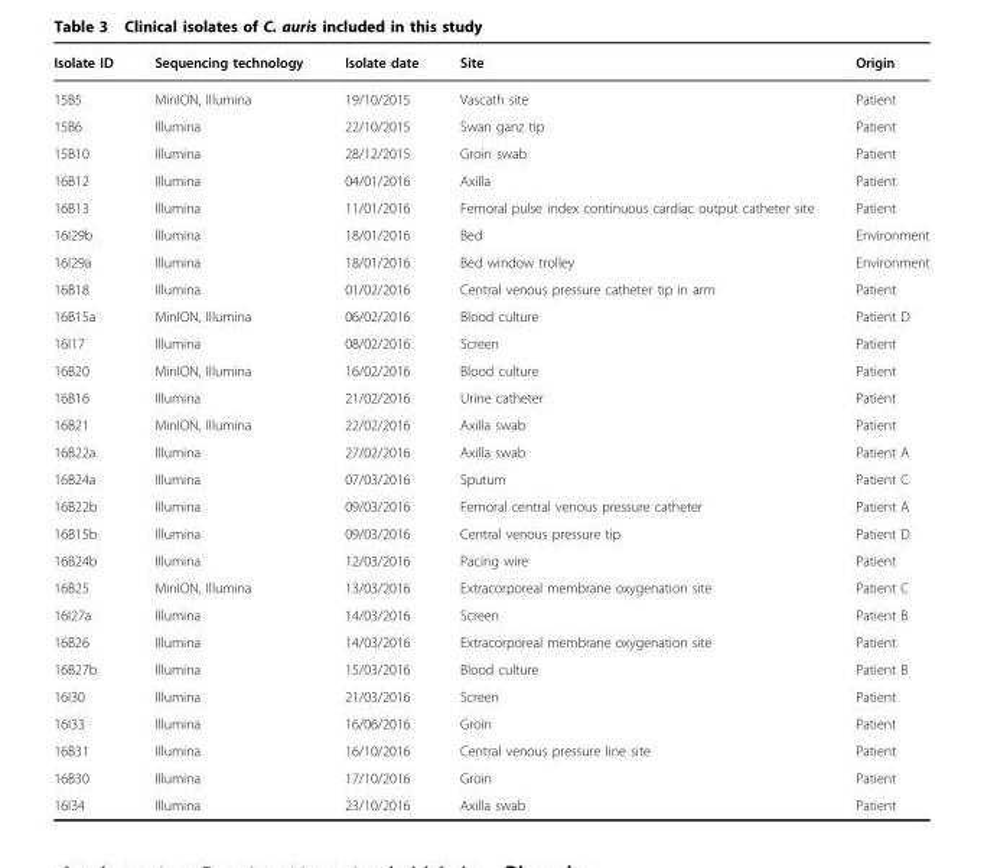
<table><thead><tr><td>Isolate ID</td><td>Sequencing technology</td><td>Isolate date</td><td>Site</td><td>Origin</td></tr></thead><tbody><tr><td>15B5</td><td>MinION, Illumina</td><td>19/10/2015</td><td>Vascath site</td><td>Patient</td></tr><tr><td>15B6</td><td>Illumina</td><td>22/10/2015</td><td>Swan ganz tip</td><td>Patient</td></tr><tr><td>15B10</td><td>Illumina</td><td>28/12/2015</td><td>Groin swab</td><td>Patient</td></tr><tr><td>16B12</td><td>Illumina</td><td>04/01/2016</td><td>Axilla</td><td>Patient</td></tr><tr><td>16B13</td><td>Illumina</td><td>11/01/2016</td><td>Femoral pulse index continuous cardiac output catheter site</td><td>Patient</td></tr><tr><td>16I29b</td><td>Illumina</td><td>18/01/2016</td><td>Bed</td><td>Environment</td></tr><tr><td>16I29a</td><td>Illumina</td><td>18/01/2016</td><td>Bed window trolley</td><td>Environment</td></tr><tr><td>16B18</td><td>Illumina</td><td>01/02/2016</td><td>Central venous pressure catheter tip in arm</td><td>Patient</td></tr><tr><td>16B15a</td><td>MinION, Illumina</td><td>06/02/2016</td><td>Blood culture</td><td>Patient D</td></tr><tr><td>16I17</td><td>Illumina</td><td>08/02/2016</td><td>Screen</td><td>Patient</td></tr><tr><td>16B20</td><td>MinION, Illumina</td><td>16/02/2016</td><td>Blood culture</td><td>Patient</td></tr><tr><td>16B16</td><td>Illumina</td><td>21/02/2016</td><td>Urine catheter</td><td>Patient</td></tr><tr><td>16B21</td><td>MinION, Illumina</td><td>22/02/2016</td><td>Axilla swab</td><td>Patient</td></tr><tr><td>16B22a</td><td>Illumina</td><td>27/02/2016</td><td>Axilla swab</td><td>Patient A</td></tr><tr><td>16B24a</td><td>Illumina</td><td>07/03/2016</td><td>Sputum</td><td>Patient C</td></tr><tr><td>16B22b</td><td>Illumina</td><td>09/03/2016</td><td>Femoral central venous pressure catheter</td><td>Patient A</td></tr><tr><td>16B15b</td><td>Illumina</td><td>09/03/2016</td><td>Central venous pressure tip</td><td>Patient D</td></tr><tr><td>16B24b</td><td>Illumina</td><td>12/03/2016</td><td>Pacing wire</td><td>Patient</td></tr><tr><td>16B25</td><td>MinION, Illumina</td><td>13/03/2016</td><td>Extracorporeal membrane oxygenation site</td><td>Patient C</td></tr><tr><td>16I27a</td><td>Illumina</td><td>14/03/2016</td><td>Screen</td><td>Patient B</td></tr><tr><td>16B26</td><td>Illumina</td><td>14/03/2016</td><td>Extracorporeal membrane oxygenation site</td><td>Patient</td></tr><tr><td>16B27b</td><td>Illumina</td><td>15/03/2016</td><td>Blood culture</td><td>Patient B</td></tr><tr><td>16I30</td><td>Illumina</td><td>21/03/2016</td><td>Screen</td><td>Patient</td></tr><tr><td>16I33</td><td>Illumina</td><td>16/06/2016</td><td>Groin</td><td>Patient</td></tr><tr><td>16B31</td><td>Illumina</td><td>16/10/2016</td><td>Central venous pressure line site</td><td>Patient</td></tr><tr><td>16B30</td><td>Illumina</td><td>17/10/2016</td><td>Groin</td><td>Patient</td></tr><tr><td>16I34</td><td>Illumina</td><td>23/10/2016</td><td>Axilla swab</td><td>Patient</td></tr></tbody></table>